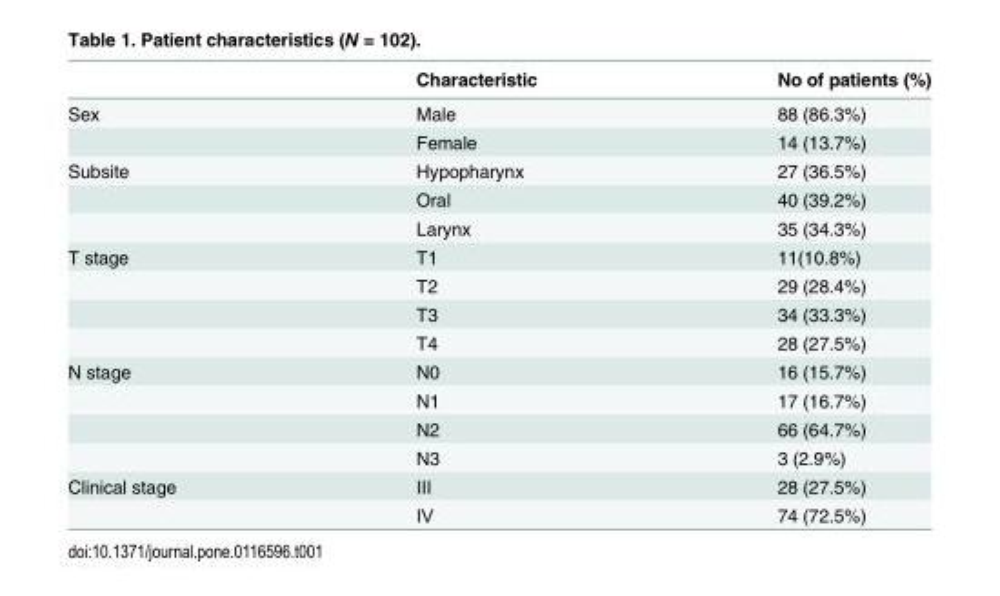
<table><thead><tr><td></td><td>Characteristic</td><td>No of patients (%)</td></tr></thead><tbody><tr><td rowspan="2">Sex</td><td>Male</td><td>88 (86.3%)</td></tr><tr><td>Female</td><td>14 (13.7%)</td></tr><tr><td rowspan="3">Subsite</td><td>Hypopharynx</td><td>27 (36.5%)</td></tr><tr><td>Oral</td><td>40 (39.2%)</td></tr><tr><td>Larynx</td><td>35 (34.3%)</td></tr><tr><td rowspan="4">T stage</td><td>T1</td><td>11(10.8%)</td></tr><tr><td>T2</td><td>29 (28.4%)</td></tr><tr><td>T3</td><td>34 (33.3%)</td></tr><tr><td>T4</td><td>28 (27.5%)</td></tr><tr><td rowspan="4">N stage</td><td>N0</td><td>16 (15.7%)</td></tr><tr><td>N1</td><td>17 (16.7%)</td></tr><tr><td>N2</td><td>66 (64.7%)</td></tr><tr><td>N3</td><td>3 (2.9%)</td></tr><tr><td rowspan="2">Clinical stage</td><td>Ⅲ</td><td>28 (27.5%)</td></tr><tr><td>Ⅳ</td><td>74 (72.5%)</td></tr></tbody></table>